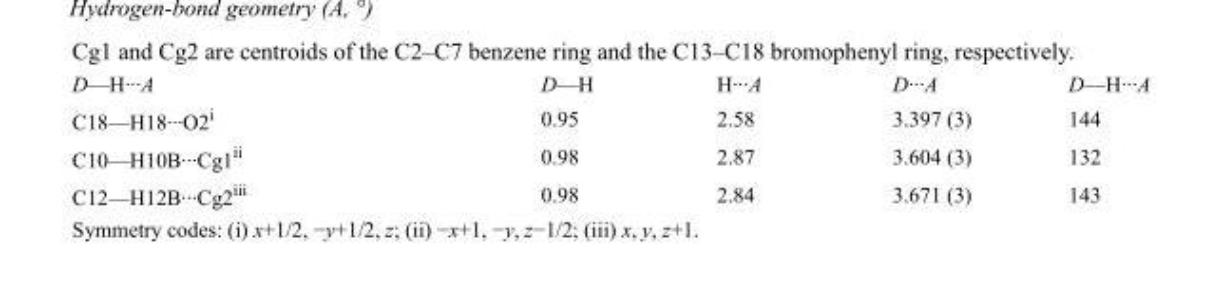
<table><tbody><tr><td>D—H···A</td><td>D—H</td><td>H···A</td><td>D···A</td><td>D—H···A</td></tr><tr><td>C18—H18···O2<sup>i</sup></td><td>0.95</td><td>2.58</td><td>3.397 (3)</td><td>144</td></tr><tr><td>C10—H10B···Cg1<sup>ii</sup></td><td>0.98</td><td>2.87</td><td>3.604 (3)</td><td>132</td></tr><tr><td>C12—H12B···Cg2<sup>iii</sup></td><td>0.98</td><td>2.84</td><td>3.671 (3)</td><td>143</td></tr></tbody></table>